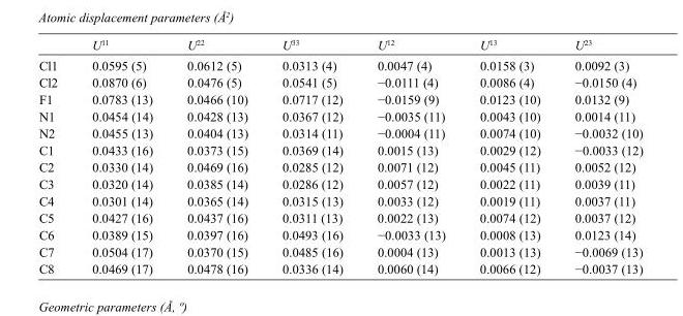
<table><thead><tr><td></td><td>U<sup>11</sup></td><td>U<sup>22</sup></td><td>U<sup>33</sup></td><td>U<sup>12</sup></td><td>U<sup>13</sup></td><td>U<sup>23</sup></td></tr></thead><tbody><tr><td>Cl1</td><td>0.0595 (5)</td><td>0.0612 (5)</td><td>0.0313 (4)</td><td>0.0047 (4)</td><td>0.0158 (3)</td><td>0.0092 (3)</td></tr><tr><td>Cl2</td><td>0.0870 (6)</td><td>0.0476 (5)</td><td>0.0541 (5)</td><td>−0.0111 (4)</td><td>0.0086 (4)</td><td>−0.0150 (4)</td></tr><tr><td>F1</td><td>0.0783 (13)</td><td>0.0466 (10)</td><td>0.0717 (12)</td><td>−0.0159 (9)</td><td>0.0123 (10)</td><td>0.0132 (9)</td></tr><tr><td>N1</td><td>0.0454 (14)</td><td>0.0428 (13)</td><td>0.0367 (12)</td><td>−0.0035 (11)</td><td>0.0043 (10)</td><td>0.0014 (11)</td></tr><tr><td>N2</td><td>0.0455 (13)</td><td>0.0404 (13)</td><td>0.0314 (11)</td><td>−0.0004 (11)</td><td>0.0074 (10)</td><td>−0.0032 (10)</td></tr><tr><td>C1</td><td>0.0433 (16)</td><td>0.0373 (15)</td><td>0.0369 (14)</td><td>0.0015 (13)</td><td>0.0029 (12)</td><td>−0.0033 (12)</td></tr><tr><td>C2</td><td>0.0330 (14)</td><td>0.0469 (16)</td><td>0.0285 (12)</td><td>0.0071 (12)</td><td>0.0045 (11)</td><td>0.0052 (12)</td></tr><tr><td>C3</td><td>0.0320 (14)</td><td>0.0385 (14)</td><td>0.0286 (12)</td><td>0.0057 (12)</td><td>0.0022 (11)</td><td>0.0039 (11)</td></tr><tr><td>C4</td><td>0.0301 (14)</td><td>0.0365 (14)</td><td>0.0315 (13)</td><td>0.0033 (12)</td><td>0.0019 (11)</td><td>0.0037 (11)</td></tr><tr><td>C5</td><td>0.0427 (16)</td><td>0.0437 (16)</td><td>0.0311 (13)</td><td>0.0022 (13)</td><td>0.0074 (12)</td><td>0.0037 (12)</td></tr><tr><td>C6</td><td>0.0389 (15)</td><td>0.0397 (16)</td><td>0.0493 (16)</td><td>−0.0033 (13)</td><td>0.0008 (13)</td><td>0.0123 (14)</td></tr><tr><td>C7</td><td>0.0504 (17)</td><td>0.0370 (15)</td><td>0.0485 (16)</td><td>0.0004 (13)</td><td>0.0013 (13)</td><td>−0.0069 (13)</td></tr><tr><td>C8</td><td>0.0469 (17)</td><td>0.0478 (16)</td><td>0.0336 (14)</td><td>0.0060 (14)</td><td>0.0066 (12)</td><td>−0.0037 (13)</td></tr></tbody></table>